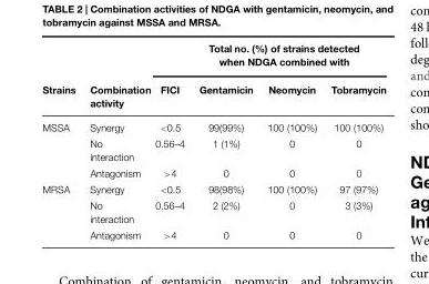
<table><thead><tr><td rowspan="2">Strains</td><td rowspan="2">Combination activity</td><td rowspan="2">FICI</td><td colspan="3">Total no. (%) of strains detected when NDGA combined with</td></tr><tr><td>Gentamicin</td><td>Neomycin</td><td>Tobramycin</td></tr></thead><tbody><tr><td rowspan="3">MSSA</td><td>Synergy</td><td>&lt;0.5</td><td>99(99%)</td><td>100 (100%)</td><td>100 (100%)</td></tr><tr><td>No interaction</td><td>0.56–4</td><td>1 (1%)</td><td>0</td><td>0</td></tr><tr><td>Antagonism</td><td>&gt;4</td><td>0</td><td>0</td><td>0</td></tr><tr><td rowspan="3">MRSA</td><td>Synergy</td><td>&lt;0.5</td><td>98(98%)</td><td>100 (100%)</td><td>97 (97%)</td></tr><tr><td>No interaction</td><td>0.56–4</td><td>2 (2%)</td><td>0</td><td>3 (3%)</td></tr><tr><td>Antagonism</td><td>&gt;4</td><td>0</td><td>0</td><td>0</td></tr></tbody></table>